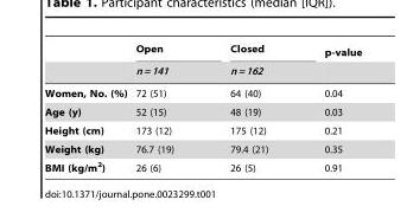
<table><thead><tr><td rowspan="2"></td><td rowspan="2">Open n = 141</td><td rowspan="2">Closed n = 162</td><td rowspan="2">p-value</td></tr><tr></tr></thead><tbody><tr><td>Women, No. (%)</td><td>72 (51)</td><td>64 (40)</td><td>0.04</td></tr><tr><td>Age (y)</td><td>52 (15)</td><td>48 (19)</td><td>0.03</td></tr><tr><td>Height (cm)</td><td>173 (12)</td><td>175 (12)</td><td>0.21</td></tr><tr><td>Weight (kg)</td><td>76.7 (19)</td><td>79.4 (21)</td><td>0.35</td></tr><tr><td>BMI (kg/m<sup>2</sup>)</td><td>26 (6)</td><td>26 (5)</td><td>0.91</td></tr></tbody></table>